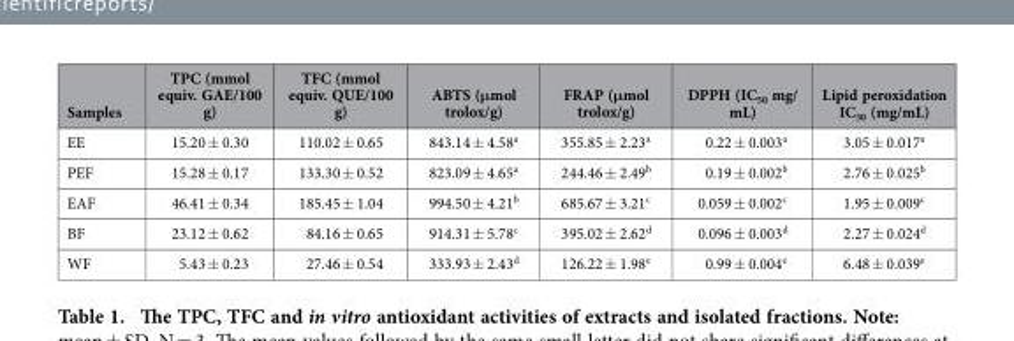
<table><thead><tr><td>Samples</td><td>TPC (mmol equiv. GAE/100 g)</td><td>TFC (mmol equiv. QUE/100 g)</td><td>ABTS (μmol trolox/g)</td><td>FRAP (μmol trolox/g)</td><td>DPPH (IC<sub>50</sub> mg/ mL)</td><td>Lipid peroxidation IC<sub>50</sub> (mg/mL)</td></tr></thead><tbody><tr><td>EE</td><td>15.20 ± 0.30</td><td>110.02 ± 0.65</td><td>843.14 ± 4.58<sup>a</sup></td><td>355.85 ± 2.23<sup>a</sup></td><td>0.22 ± 0.003<sup>a</sup></td><td>3.05 ± 0.017<sup>a</sup></td></tr><tr><td>PEF</td><td>15.28 ± 0.17</td><td>133.30 ± 0.52</td><td>823.09 ± 4.65<sup>a</sup></td><td>244.46 ± 2.49<sup>b</sup></td><td>0.19 ± 0.002<sup>b</sup></td><td>2.76 ± 0.025<sup>b</sup></td></tr><tr><td>EAF</td><td>46.41 ± 0.34</td><td>185.45 ± 1.04</td><td>994.50 ± 4.21<sup>b</sup></td><td>685.67 ± 3.21<sup>c</sup></td><td>0.059 ± 0.002<sup>c</sup></td><td>1.95 ± 0.009<sup>c</sup></td></tr><tr><td>BF</td><td>23.12 ± 0.62</td><td>84.16 ± 0.65</td><td>914.31 ± 5.78<sup>c</sup></td><td>395.02 ± 2.62<sup>d</sup></td><td>0.096 ± 0.003<sup>d</sup></td><td>2.27 ± 0.024<sup>d</sup></td></tr><tr><td>WF</td><td>5.43 ± 0.23</td><td>27.46 ± 0.54</td><td>333.93 ± 2.43<sup>d</sup></td><td>126.22 ± 1.98<sup>e</sup></td><td>0.99 ± 0.004<sup>e</sup></td><td>6.48 ± 0.039<sup>e</sup></td></tr></tbody></table>